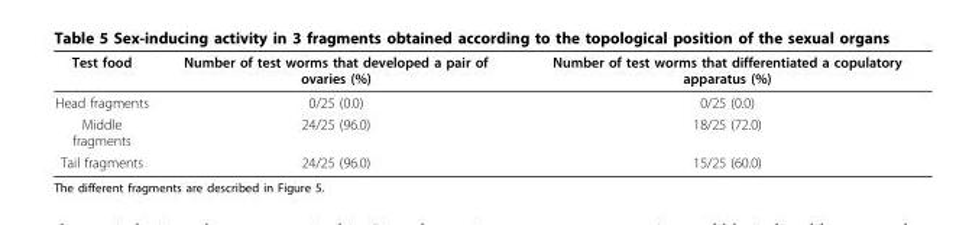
<table><thead><tr><td>Test food</td><td>Number of test worms that developed a pair of ovaries (%)</td><td>Number of test worms that differentiated a copulatory apparatus (%)</td></tr></thead><tbody><tr><td>Head fragments</td><td>0/25 (0.0)</td><td>0/25 (0.0)</td></tr><tr><td>Middle fragments</td><td>24/25 (96.0)</td><td>18/25 (72.0)</td></tr><tr><td>Tail fragments</td><td>24/25 (96.0)</td><td>15/25 (60.0)</td></tr></tbody></table>